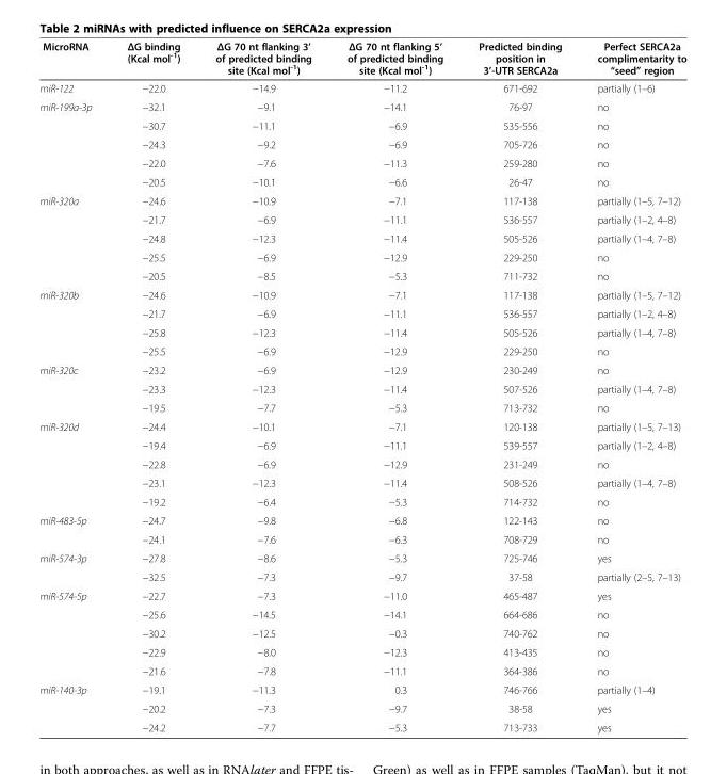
<table><thead><tr><td>MicroRNA</td><td>ΔG binding (Kcal mol<sup>-1</sup>)</td><td>ΔG 70 nt flanking 3’ of predicted binding site (Kcal mol<sup>-1</sup>)</td><td>ΔG 70 nt flanking 5’ of predicted binding site (Kcal mol<sup>-1</sup>)</td><td>Predicted binding position in 3’-UTR SERCA2a</td><td>Perfect SERCA2a complimentarity to “seed” region</td></tr></thead><tbody><tr><td>miR-122</td><td>−22.0</td><td>−14.9</td><td>−11.2</td><td>671-692</td><td>partially (1–6)</td></tr><tr><td rowspan="5">miR-199a-3p</td><td>−32.1</td><td>−9.1</td><td>−14.1</td><td>76-97</td><td>no</td></tr><tr><td>−30.7</td><td>−11.1</td><td>−6.9</td><td>535-556</td><td>no</td></tr><tr><td>−24.3</td><td>−9.2</td><td>−6.9</td><td>705-726</td><td>no</td></tr><tr><td>−22.0</td><td>−7.6</td><td>−11.3</td><td>259-280</td><td>no</td></tr><tr><td>−20.5</td><td>−10.1</td><td>−6.6</td><td>26-47</td><td>no</td></tr><tr><td rowspan="5">miR-320a</td><td>−24.6</td><td>−10.9</td><td>−7.1</td><td>117-138</td><td>partially (1–5, 7–12)</td></tr><tr><td>−21.7</td><td>−6.9</td><td>−11.1</td><td>536-557</td><td>partially (1–2, 4–8)</td></tr><tr><td>−24.8</td><td>−12.3</td><td>−11.4</td><td>505-526</td><td>partially (1–4, 7–8)</td></tr><tr><td>−25.5</td><td>−6.9</td><td>−12.9</td><td>229-250</td><td>no</td></tr><tr><td>−20.5</td><td>−8.5</td><td>−5.3</td><td>711-732</td><td>no</td></tr><tr><td rowspan="4">miR-320b</td><td>−24.6</td><td>−10.9</td><td>−7.1</td><td>117-138</td><td>partially (1–5, 7–12)</td></tr><tr><td>−21.7</td><td>−6.9</td><td>−11.1</td><td>536-557</td><td>partially (1–2, 4–8)</td></tr><tr><td>−25.8</td><td>−12.3</td><td>−11.4</td><td>505-526</td><td>partially (1–4, 7–8)</td></tr><tr><td>−25.5</td><td>−6.9</td><td>−12.9</td><td>229-250</td><td>no</td></tr><tr><td rowspan="3">miR-320c</td><td>−23.2</td><td>−6.9</td><td>−12.9</td><td>230-249</td><td>no</td></tr><tr><td>−23.3</td><td>−12.3</td><td>−11.4</td><td>507-526</td><td>partially (1–4, 7–8)</td></tr><tr><td>−19.5</td><td>−7.7</td><td>−5.3</td><td>713-732</td><td>no</td></tr><tr><td rowspan="5">miR-320d</td><td>−24.4</td><td>−10.1</td><td>−7.1</td><td>120-138</td><td>partially (1–5, 7–13)</td></tr><tr><td>−19.4</td><td>−6.9</td><td>−11.1</td><td>539-557</td><td>partially (1–2, 4–8)</td></tr><tr><td>−22.8</td><td>−6.9</td><td>−12.9</td><td>231-249</td><td>no</td></tr><tr><td>−23.1</td><td>−12.3</td><td>−11.4</td><td>508-526</td><td>partially (1–4, 7–8)</td></tr><tr><td>−19.2</td><td>−6.4</td><td>−5.3</td><td>714-732</td><td>no</td></tr><tr><td rowspan="2">miR-483-5p</td><td>−24.7</td><td>−9.8</td><td>−6.8</td><td>122-143</td><td>no</td></tr><tr><td>−24.1</td><td>−7.6</td><td>−6.3</td><td>708-729</td><td>no</td></tr><tr><td rowspan="2">miR-574-3p</td><td>−27.8</td><td>−8.6</td><td>−5.3</td><td>725-746</td><td>yes</td></tr><tr><td>−32.5</td><td>−7.3</td><td>−9.7</td><td>37-58</td><td>partially (2–5, 7–13)</td></tr><tr><td rowspan="5">miR-574-5p</td><td>−22.7</td><td>−7.3</td><td>−11.0</td><td>465-487</td><td>yes</td></tr><tr><td>−25.6</td><td>−14.5</td><td>−14.1</td><td>664-686</td><td>no</td></tr><tr><td>−30.2</td><td>−12.5</td><td>−0.3</td><td>740-762</td><td>no</td></tr><tr><td>−22.9</td><td>−8.0</td><td>−12.3</td><td>413-435</td><td>no</td></tr><tr><td>−21.6</td><td>−7.8</td><td>−11.1</td><td>364-386</td><td>no</td></tr><tr><td rowspan="3">miR-140-3p</td><td>−19.1</td><td>−11.3</td><td>0.3</td><td>746-766</td><td>partially (1–4)</td></tr><tr><td>−20.2</td><td>−7.3</td><td>−9.7</td><td>38-58</td><td>yes</td></tr><tr><td>−24.2</td><td>−7.7</td><td>−5.3</td><td>713-733</td><td>yes</td></tr></tbody></table>